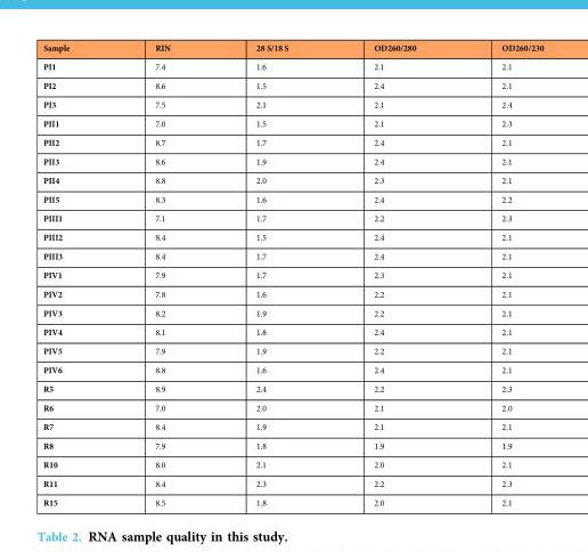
<table><thead><tr><td>Sample</td><td>RIN</td><td>28 S/18 S</td><td>OD260/280</td><td>OD260/230</td></tr></thead><tbody><tr><td>PI1</td><td>7.4</td><td>1.6</td><td>2.1</td><td>2.1</td></tr><tr><td>PI2</td><td>8.6</td><td>1.5</td><td>2.4</td><td>2.1</td></tr><tr><td>PI3</td><td>7.5</td><td>2.1</td><td>2.1</td><td>2.4</td></tr><tr><td>PII1</td><td>7.0</td><td>1.5</td><td>2.1</td><td>2.3</td></tr><tr><td>PII2</td><td>8.7</td><td>1.7</td><td>2.4</td><td>2.1</td></tr><tr><td>PII3</td><td>8.6</td><td>1.9</td><td>2.4</td><td>2.1</td></tr><tr><td>PII4</td><td>8.8</td><td>2.0</td><td>2.3</td><td>2.1</td></tr><tr><td>PII5</td><td>8.3</td><td>1.6</td><td>2.4</td><td>2.2</td></tr><tr><td>PIII1</td><td>7.1</td><td>1.7</td><td>2.2</td><td>2.3</td></tr><tr><td>PIII2</td><td>8.4</td><td>1.5</td><td>2.4</td><td>2.1</td></tr><tr><td>PIII3</td><td>8.4</td><td>1.7</td><td>2.4</td><td>2.1</td></tr><tr><td>PIV1</td><td>7.9</td><td>1.7</td><td>2.3</td><td>2.1</td></tr><tr><td>PIV2</td><td>7.8</td><td>1.6</td><td>2.2</td><td>2.1</td></tr><tr><td>PIV3</td><td>8.2</td><td>1.9</td><td>2.2</td><td>2.1</td></tr><tr><td>PIV4</td><td>8.1</td><td>1.8</td><td>2.4</td><td>2.1</td></tr><tr><td>PIV5</td><td>7.9</td><td>1.9</td><td>2.2</td><td>2.1</td></tr><tr><td>PIV6</td><td>8.8</td><td>1.6</td><td>2.4</td><td>2.1</td></tr><tr><td>R5</td><td>8.9</td><td>2.4</td><td>2.2</td><td>2.3</td></tr><tr><td>R6</td><td>7.0</td><td>2.0</td><td>2.1</td><td>2.0</td></tr><tr><td>R7</td><td>8.4</td><td>1.9</td><td>2.1</td><td>2.1</td></tr><tr><td>R8</td><td>7.9</td><td>1.8</td><td>1.9</td><td>1.9</td></tr><tr><td>R10</td><td>8.0</td><td>2.1</td><td>2.0</td><td>2.1</td></tr><tr><td>R11</td><td>8.4</td><td>2.3</td><td>2.2</td><td>2.3</td></tr><tr><td>R15</td><td>8.5</td><td>1.8</td><td>2.0</td><td>2.1</td></tr></tbody></table>